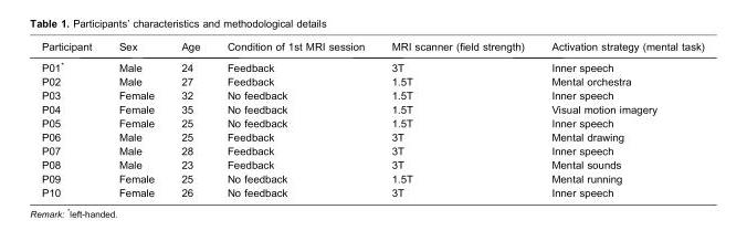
<table><thead><tr><td>Participant</td><td>Sex</td><td>Age</td><td>Condition of 1st MRI session</td><td>MRI scanner (field strength)</td><td>Activation strategy (mental task)</td></tr></thead><tbody><tr><td>P01*</td><td>Male</td><td>24</td><td>Feedback</td><td>3T</td><td>Inner speech</td></tr><tr><td>P02</td><td>Male</td><td>27</td><td>Feedback</td><td>1.5T</td><td>Mental orchestra</td></tr><tr><td>P03</td><td>Female</td><td>32</td><td>No feedback</td><td>1.5T</td><td>Inner speech</td></tr><tr><td>P04</td><td>Female</td><td>35</td><td>No feedback</td><td>1.5T</td><td>Visual motion imagery</td></tr><tr><td>P05</td><td>Female</td><td>25</td><td>No feedback</td><td>1.5T</td><td>Inner speech</td></tr><tr><td>P06</td><td>Male</td><td>25</td><td>Feedback</td><td>3T</td><td>Mental drawing</td></tr><tr><td>P07</td><td>Male</td><td>28</td><td>Feedback</td><td>3T</td><td>Inner speech</td></tr><tr><td>P08</td><td>Male</td><td>23</td><td>Feedback</td><td>3T</td><td>Mental sounds</td></tr><tr><td>P09</td><td>Female</td><td>25</td><td>No feedback</td><td>1.5T</td><td>Mental running</td></tr><tr><td>P10</td><td>Female</td><td>26</td><td>No feedback</td><td>3T</td><td>Inner speech</td></tr></tbody></table>